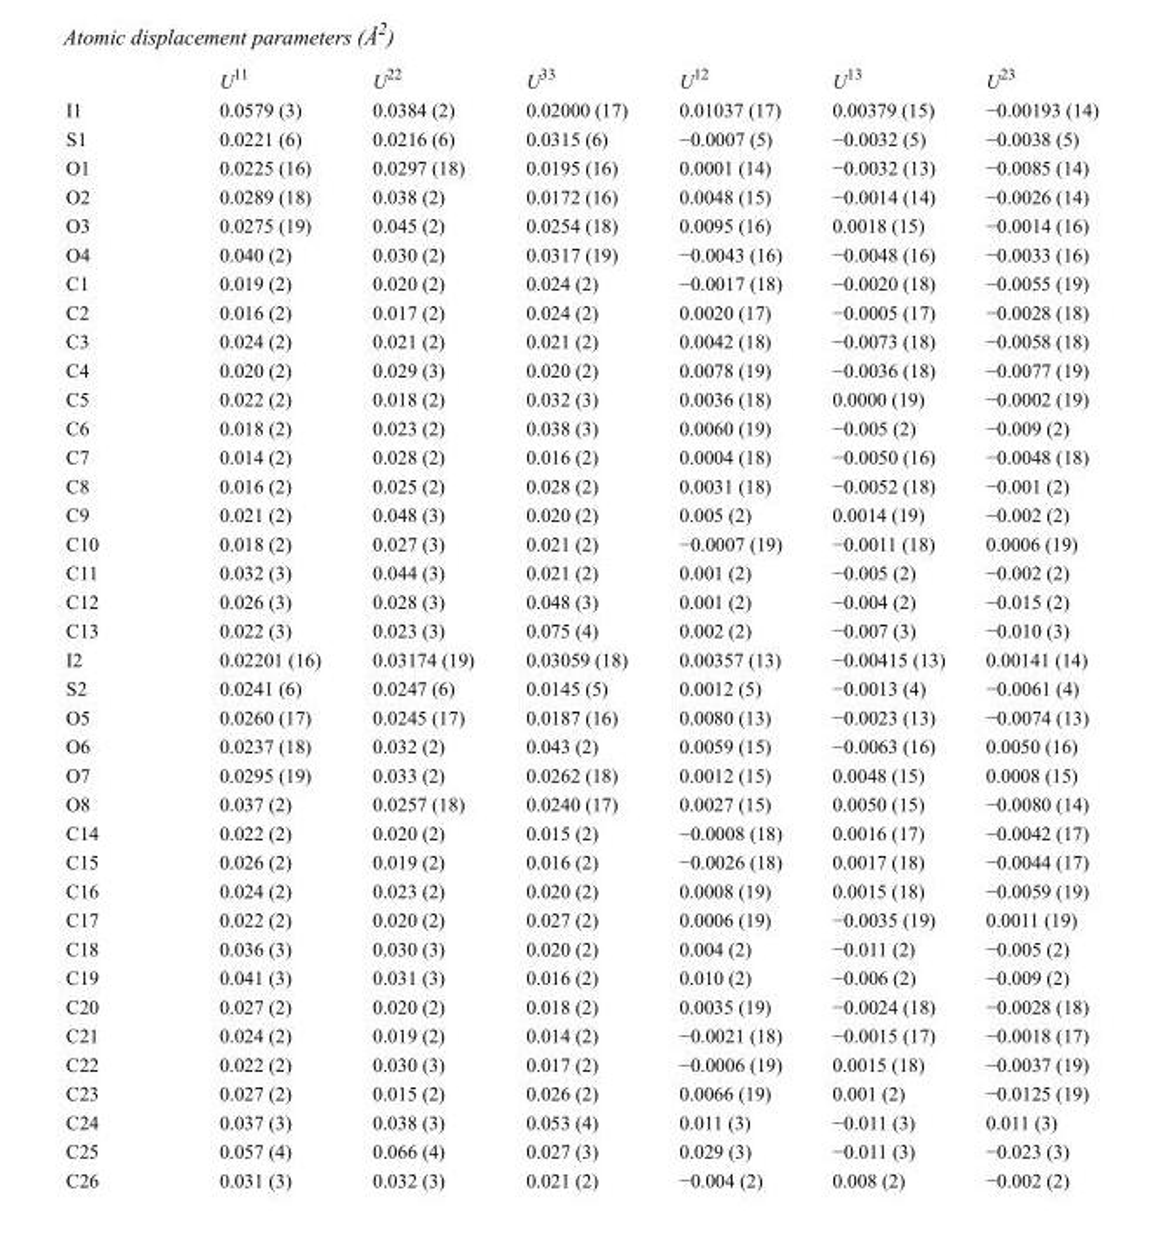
<table><thead><tr><td></td><td>U<sup>11</sup></td><td>U<sup>22</sup></td><td>U<sup>33</sup></td><td>U<sup>12</sup></td><td>U<sup>13</sup></td><td>U<sup>23</sup></td></tr></thead><tbody><tr><td>I1</td><td>0.0579 (3)</td><td>0.0384 (2)</td><td>0.02000 (17)</td><td>0.01037 (17)</td><td>0.00379 (15)</td><td>−0.00193 (14)</td></tr><tr><td>S1</td><td>0.0221 (6)</td><td>0.0216 (6)</td><td>0.0315 (6)</td><td>−0.0007 (5)</td><td>−0.0032 (5)</td><td>−0.0038 (5)</td></tr><tr><td>O1</td><td>0.0225 (16)</td><td>0.0297 (18)</td><td>0.0195 (16)</td><td>0.0001 (14)</td><td>−0.0032 (13)</td><td>−0.0085 (14)</td></tr><tr><td>O2</td><td>0.0289 (18)</td><td>0.038 (2)</td><td>0.0172 (16)</td><td>0.0048 (15)</td><td>−0.0014 (14)</td><td>−0.0026 (14)</td></tr><tr><td>O3</td><td>0.0275 (19)</td><td>0.045 (2)</td><td>0.0254 (18)</td><td>0.0095 (16)</td><td>0.0018 (15)</td><td>−0.0014 (16)</td></tr><tr><td>O4</td><td>0.040 (2)</td><td>0.030 (2)</td><td>0.0317 (19)</td><td>−0.0043 (16)</td><td>−0.0048 (16)</td><td>−0.0033 (16)</td></tr><tr><td>C1</td><td>0.019 (2)</td><td>0.020 (2)</td><td>0.024 (2)</td><td>−0.0017 (18)</td><td>−0.0020 (18)</td><td>−0.0055 (19)</td></tr><tr><td>C2</td><td>0.016 (2)</td><td>0.017 (2)</td><td>0.024 (2)</td><td>0.0020 (17)</td><td>−0.0005 (17)</td><td>−0.0028 (18)</td></tr><tr><td>C3</td><td>0.024 (2)</td><td>0.021 (2)</td><td>0.021 (2)</td><td>0.0042 (18)</td><td>−0.0073 (18)</td><td>−0.0058 (18)</td></tr><tr><td>C4</td><td>0.020 (2)</td><td>0.029 (3)</td><td>0.020 (2)</td><td>0.0078 (19)</td><td>−0.0036 (18)</td><td>−0.0077 (19)</td></tr><tr><td>C5</td><td>0.022 (2)</td><td>0.018 (2)</td><td>0.032 (3)</td><td>0.0036 (18)</td><td>0.0000 (19)</td><td>−0.0002 (19)</td></tr><tr><td>C6</td><td>0.018 (2)</td><td>0.023 (2)</td><td>0.038 (3)</td><td>0.0060 (19)</td><td>−0.005 (2)</td><td>−0.009 (2)</td></tr><tr><td>C7</td><td>0.014 (2)</td><td>0.028 (2)</td><td>0.016 (2)</td><td>0.0004 (18)</td><td>−0.0050 (16)</td><td>−0.0048 (18)</td></tr><tr><td>C8</td><td>0.016 (2)</td><td>0.025 (2)</td><td>0.028 (2)</td><td>0.0031 (18)</td><td>−0.0052 (18)</td><td>−0.001 (2)</td></tr><tr><td>C9</td><td>0.021 (2)</td><td>0.048 (3)</td><td>0.020 (2)</td><td>0.005 (2)</td><td>0.0014 (19)</td><td>−0.002 (2)</td></tr><tr><td>C10</td><td>0.018 (2)</td><td>0.027 (3)</td><td>0.021 (2)</td><td>−0.0007 (19)</td><td>−0.0011 (18)</td><td>0.0006 (19)</td></tr><tr><td>C11</td><td>0.032 (3)</td><td>0.044 (3)</td><td>0.021 (2)</td><td>0.001 (2)</td><td>−0.005 (2)</td><td>−0.002 (2)</td></tr><tr><td>C12</td><td>0.026 (3)</td><td>0.028 (3)</td><td>0.048 (3)</td><td>0.001 (2)</td><td>−0.004 (2)</td><td>−0.015 (2)</td></tr><tr><td>C13</td><td>0.022 (3)</td><td>0.023 (3)</td><td>0.075 (4)</td><td>0.002 (2)</td><td>−0.007 (3)</td><td>−0.010 (3)</td></tr><tr><td>I2</td><td>0.02201 (16)</td><td>0.03174 (19)</td><td>0.03059 (18)</td><td>0.00357 (13)</td><td>−0.00415 (13)</td><td>0.00141 (14)</td></tr><tr><td>S2</td><td>0.0241 (6)</td><td>0.0247 (6)</td><td>0.0145 (5)</td><td>0.0012 (5)</td><td>−0.0013 (4)</td><td>−0.0061 (4)</td></tr><tr><td>O5</td><td>0.0260 (17)</td><td>0.0245 (17)</td><td>0.0187 (16)</td><td>0.0080 (13)</td><td>−0.0023 (13)</td><td>−0.0074 (13)</td></tr><tr><td>O6</td><td>0.0237 (18)</td><td>0.032 (2)</td><td>0.043 (2)</td><td>0.0059 (15)</td><td>−0.0063 (16)</td><td>0.0050 (16)</td></tr><tr><td>O7</td><td>0.0295 (19)</td><td>0.033 (2)</td><td>0.0262 (18)</td><td>0.0012 (15)</td><td>0.0048 (15)</td><td>0.0008 (15)</td></tr><tr><td>O8</td><td>0.037 (2)</td><td>0.0257 (18)</td><td>0.0240 (17)</td><td>0.0027 (15)</td><td>0.0050 (15)</td><td>−0.0080 (14)</td></tr><tr><td>C14</td><td>0.022 (2)</td><td>0.020 (2)</td><td>0.015 (2)</td><td>−0.0008 (18)</td><td>0.0016 (17)</td><td>−0.0042 (17)</td></tr><tr><td>C15</td><td>0.026 (2)</td><td>0.019 (2)</td><td>0.016 (2)</td><td>−0.0026 (18)</td><td>0.0017 (18)</td><td>−0.0044 (17)</td></tr><tr><td>C16</td><td>0.024 (2)</td><td>0.023 (2)</td><td>0.020 (2)</td><td>0.0008 (19)</td><td>0.0015 (18)</td><td>−0.0059 (19)</td></tr><tr><td>C17</td><td>0.022 (2)</td><td>0.020 (2)</td><td>0.027 (2)</td><td>0.0006 (19)</td><td>−0.0035 (19)</td><td>0.0011 (19)</td></tr><tr><td>C18</td><td>0.036 (3)</td><td>0.030 (3)</td><td>0.020 (2)</td><td>0.004 (2)</td><td>−0.011 (2)</td><td>−0.005 (2)</td></tr><tr><td>C19</td><td>0.041 (3)</td><td>0.031 (3)</td><td>0.016 (2)</td><td>0.010 (2)</td><td>−0.006 (2)</td><td>−0.009 (2)</td></tr><tr><td>C20</td><td>0.027 (2)</td><td>0.020 (2)</td><td>0.018 (2)</td><td>0.0035 (19)</td><td>−0.0024 (18)</td><td>−0.0028 (18)</td></tr><tr><td>C21</td><td>0.024 (2)</td><td>0.019 (2)</td><td>0.014 (2)</td><td>−0.0021 (18)</td><td>−0.0015 (17)</td><td>−0.0018 (17)</td></tr><tr><td>C22</td><td>0.022 (2)</td><td>0.030 (3)</td><td>0.017 (2)</td><td>−0.0006 (19)</td><td>0.0015 (18)</td><td>−0.0037 (19)</td></tr><tr><td>C23</td><td>0.027 (2)</td><td>0.015 (2)</td><td>0.026 (2)</td><td>0.0066 (19)</td><td>0.001 (2)</td><td>−0.0125 (19)</td></tr><tr><td>C24</td><td>0.037 (3)</td><td>0.038 (3)</td><td>0.053 (4)</td><td>0.011 (3)</td><td>−0.011 (3)</td><td>0.011 (3)</td></tr><tr><td>C25</td><td>0.057 (4)</td><td>0.066 (4)</td><td>0.027 (3)</td><td>0.029 (3)</td><td>−0.011 (3)</td><td>−0.023 (3)</td></tr><tr><td>C26</td><td>0.031 (3)</td><td>0.032 (3)</td><td>0.021 (2)</td><td>−0.004 (2)</td><td>0.008 (2)</td><td>−0.002 (2)</td></tr></tbody></table>